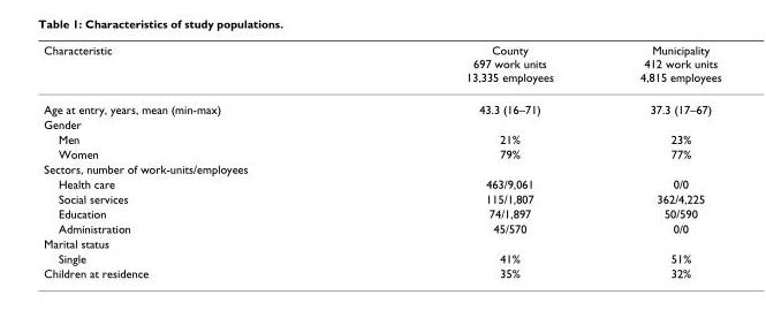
<table><thead><tr><td>Characteristic</td><td>County 697 work units 13,335 employees</td><td>Municipality 412 work units 4,815 employees</td></tr></thead><tbody><tr><td>Age at entry, years, mean (min-max)</td><td>43.3 (16–71)</td><td>37.3 (17–67)</td></tr><tr><td colspan="3">Gender</td></tr><tr><td>Men</td><td>21%</td><td>23%</td></tr><tr><td>Women</td><td>79%</td><td>77%</td></tr><tr><td colspan="3">Sectors, number of work-units/employees</td></tr><tr><td>Health care</td><td>463/9,061</td><td>0/0</td></tr><tr><td>Social services</td><td>115/1,807</td><td>362/4,225</td></tr><tr><td>Education</td><td>74/1,897</td><td>50/590</td></tr><tr><td>Administration</td><td>45/570</td><td>0/0</td></tr><tr><td colspan="3">Marital status</td></tr><tr><td>Single</td><td>41%</td><td>51%</td></tr><tr><td>Children at residence</td><td>35%</td><td>32%</td></tr></tbody></table>